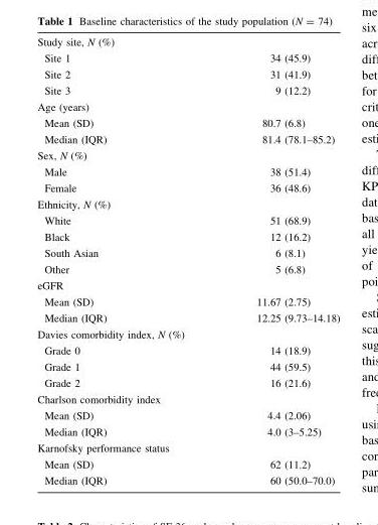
<table><tbody><tr><td colspan="2">Study site, N (%)</td></tr><tr><td>Site 1</td><td>34 (45.9)</td></tr><tr><td>Site 2</td><td>31 (41.9)</td></tr><tr><td>Site 3</td><td>9 (12.2)</td></tr><tr><td colspan="2">Age (years)</td></tr><tr><td>Mean (SD)</td><td>80.7 (6.8)</td></tr><tr><td>Median (IQR)</td><td>81.4 (78.1–85.2)</td></tr><tr><td colspan="2">Sex, N (%)</td></tr><tr><td>Male</td><td>38 (51.4)</td></tr><tr><td>Female</td><td>36 (48.6)</td></tr><tr><td colspan="2">Ethnicity, N (%)</td></tr><tr><td>White</td><td>51 (68.9)</td></tr><tr><td>Black</td><td>12 (16.2)</td></tr><tr><td>South Asian</td><td>6 (8.1)</td></tr><tr><td>Other</td><td>5 (6.8)</td></tr><tr><td colspan="2">eGFR</td></tr><tr><td>Mean (SD)</td><td>11.67 (2.75)</td></tr><tr><td>Median (IQR)</td><td>12.25 (9.73–14.18)</td></tr><tr><td colspan="2">Davies comorbidity index, N (%)</td></tr><tr><td>Grade 0</td><td>14 (18.9)</td></tr><tr><td>Grade 1</td><td>44 (59.5)</td></tr><tr><td>Grade 2</td><td>16 (21.6)</td></tr><tr><td colspan="2">Charlson comorbidity index</td></tr><tr><td>Mean (SD)</td><td>4.4 (2.06)</td></tr><tr><td>Median (IQR)</td><td>4.0 (3–5.25)</td></tr><tr><td colspan="2">Karnofsky performance status</td></tr><tr><td>Mean (SD)</td><td>62 (11.2)</td></tr><tr><td>Median (IQR)</td><td>60 (50.0–70.0)</td></tr></tbody></table>